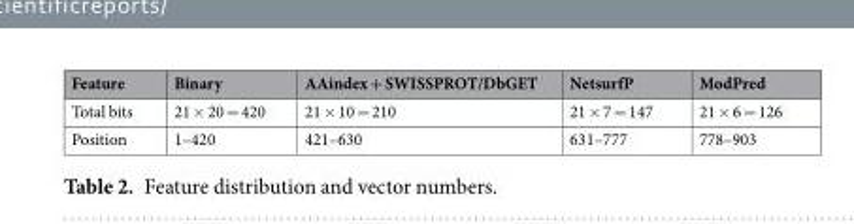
<table><thead><tr><td>Feature</td><td>Binary</td><td>AAindex + SWISSPROT/DbGET</td><td>NetsurfP</td><td>ModPred</td></tr></thead><tbody><tr><td>Total bits</td><td>21 × 20 = 420</td><td>21 × 10 = 210</td><td>21 × 7 = 147</td><td>21 × 6 = 126</td></tr><tr><td>Position</td><td>1–420</td><td>421–630</td><td>631–777</td><td>778–903</td></tr></tbody></table>